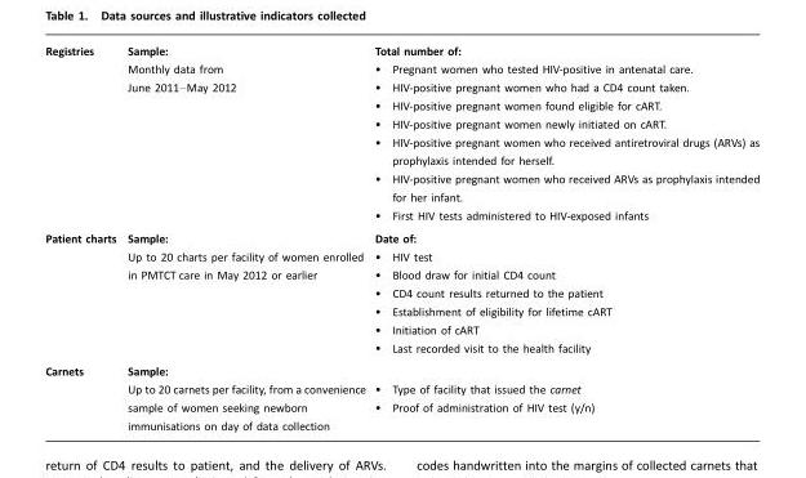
<table><tbody><tr><td>Registries</td><td>Sample: Monthly data from June 2011–May 2012</td><td>Total number of: � Pregnant women who tested HIV-positive in antenatal care. � HIV-positive pregnant women who had a CD4 count taken. � HIV-positive pregnant women found eligible for cART. � HIV-positive pregnant women newly initiated on cART. � HIV-positive pregnant women who received antiretroviral drugs (ARVs) as prophylaxis intended for herself. � HIV-positive pregnant women who received ARVs as prophylaxis intended for her infant. � First HIV tests administered to HIV-exposed infants</td></tr><tr><td>Patient charts</td><td>Sample: Up to 20 charts per facility of women enrolled in PMTCT care in May 2012 or earlier</td><td>Date of: � HIV test � Blood draw for initial CD4 count � CD4 count results returned to the patient � Establishment of eligibility for lifetime cART � Initiation of cART � Last recorded visit to the health facility</td></tr><tr><td>Carnets</td><td>Sample: Up to 20 carnets per facility, from a convenience sample of women seeking newborn immunisations on day of data collection</td><td>� Type of facility that issued the carnet � Proof of administration of HIV test (y/n)</td></tr></tbody></table>